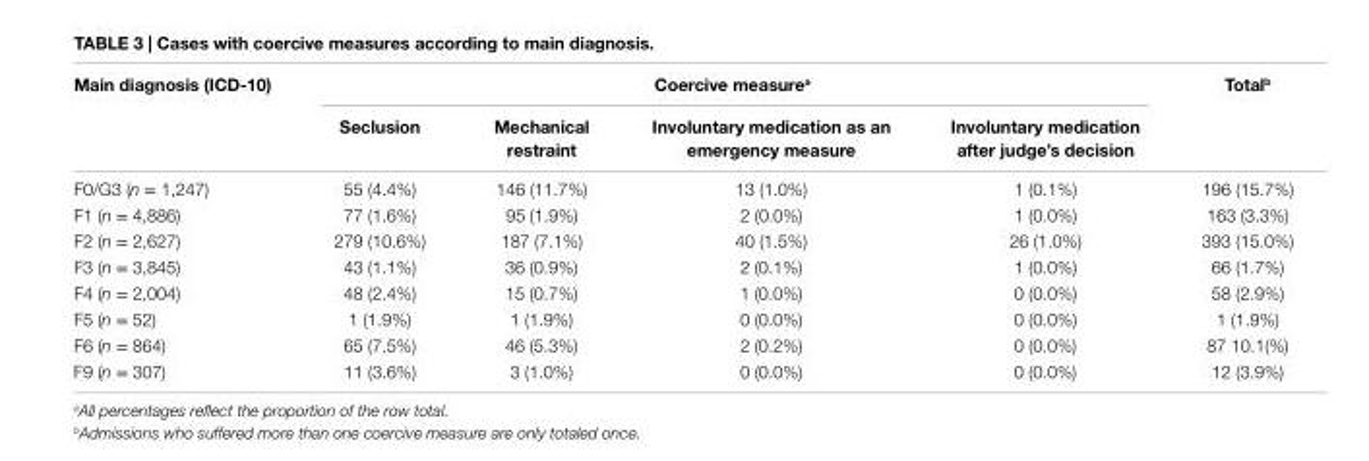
<table><thead><tr><td rowspan="2">Main diagnosis (icD-10)</td><td colspan="4">coercive measure<sup>a</sup></td><td rowspan="2">Total<sup>b</sup></td></tr><tr><td>seclusion</td><td>Mechanical restraint</td><td>involuntary medication as an emergency measure</td><td>involuntary medication after judge’s decision</td></tr></thead><tbody><tr><td>F0/G3 (n = 1,247)</td><td>55 (4.4%)</td><td>146 (11.7%)</td><td>13 (1.0%)</td><td>1 (0.1%)</td><td>196 (15.7%)</td></tr><tr><td>F1 (n = 4,886)</td><td>77 (1.6%)</td><td>95 (1.9%)</td><td>2 (0.0%)</td><td>1 (0.0%)</td><td>163 (3.3%)</td></tr><tr><td>F2 (n = 2,627)</td><td>279 (10.6%)</td><td>187 (7.1%)</td><td>40 (1.5%)</td><td>26 (1.0%)</td><td>393 (15.0%)</td></tr><tr><td>F3 (n = 3,845)</td><td>43 (1.1%)</td><td>36 (0.9%)</td><td>2 (0.1%)</td><td>1 (0.0%)</td><td>66 (1.7%)</td></tr><tr><td>F4 (n = 2,004)</td><td>48 (2.4%)</td><td>15 (0.7%)</td><td>1 (0.0%)</td><td>0 (0.0%)</td><td>58 (2.9%)</td></tr><tr><td>F5 (n = 52)</td><td>1 (1.9%)</td><td>1 (1.9%)</td><td>0 (0.0%)</td><td>0 (0.0%)</td><td>1 (1.9%)</td></tr><tr><td>F6 (n = 864)</td><td>65 (7.5%)</td><td>46 (5.3%)</td><td>2 (0.2%)</td><td>0 (0.0%)</td><td>87 10.1(%)</td></tr><tr><td>F9 (n = 307)</td><td>11 (3.6%)</td><td>3 (1.0%)</td><td>0 (0.0%)</td><td>0 (0.0%)</td><td>12 (3.9%)</td></tr></tbody></table>